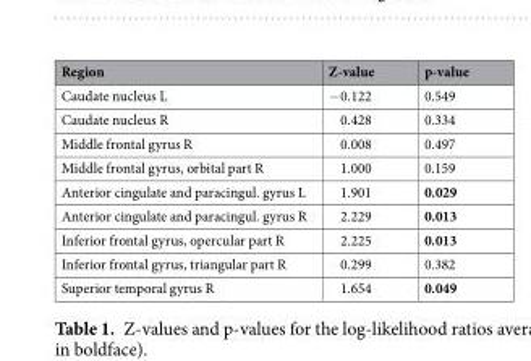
<table><thead><tr><td>Region</td><td>Z-value</td><td>p-value</td></tr></thead><tbody><tr><td>Caudate nucleus L</td><td>−0.122</td><td>0.549</td></tr><tr><td>Caudate nucleus R</td><td>0.428</td><td>0.334</td></tr><tr><td>Middle frontal gyrus R</td><td>0.008</td><td>0.497</td></tr><tr><td>Middle frontal gyrus, orbital part R</td><td>1.000</td><td>0.159</td></tr><tr><td>Anterior cingulate and paracingul. gyrus L</td><td>1.901</td><td>0.029</td></tr><tr><td>Anterior cingulate and paracingul. gyrus R</td><td>2.229</td><td>0.013</td></tr><tr><td>Inferior frontal gyrus, opercular part R</td><td>2.225</td><td>0.013</td></tr><tr><td>Inferior frontal gyrus, triangular part R</td><td>0.299</td><td>0.382</td></tr><tr><td>Superior temporal gyrus R</td><td>1.654</td><td>0.049</td></tr></tbody></table>